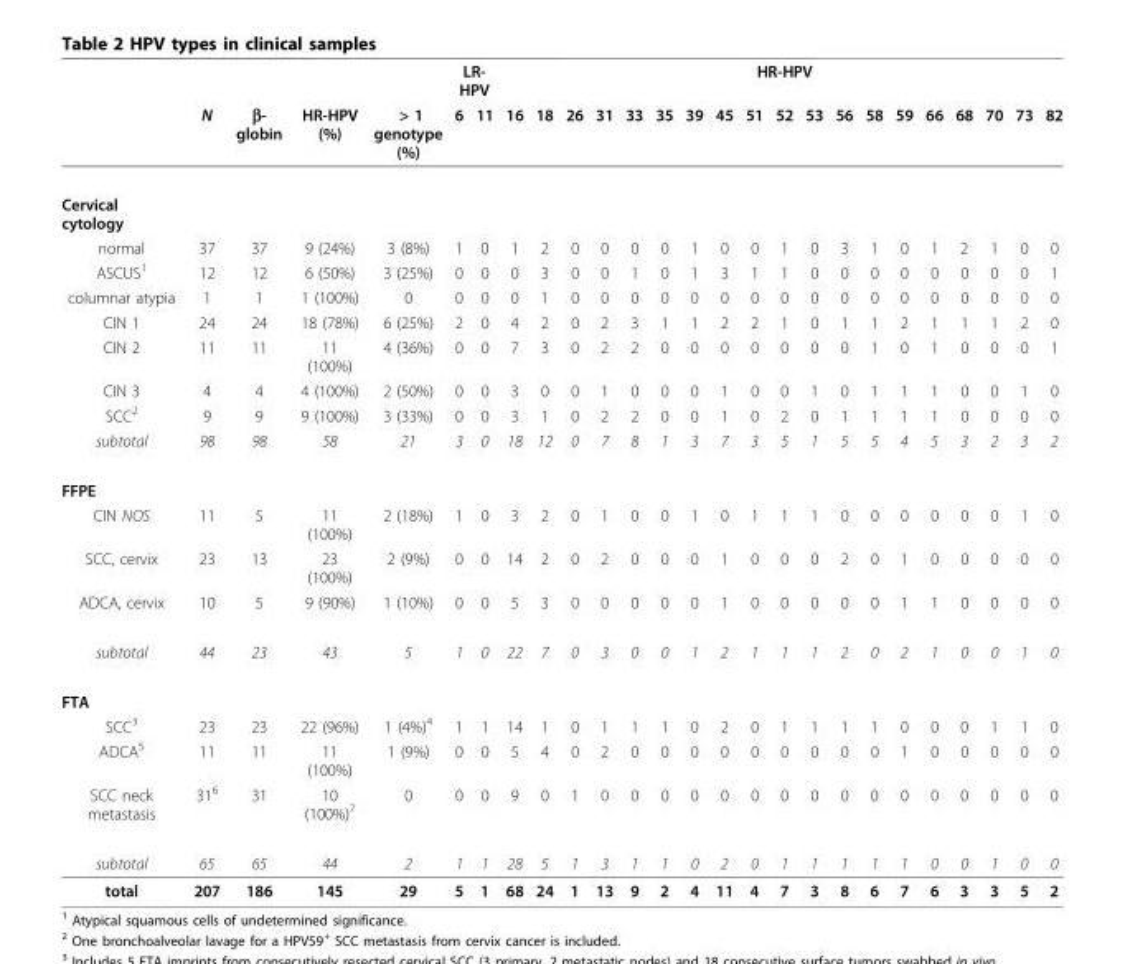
<table><thead><tr><td rowspan="2"></td><td rowspan="2">N</td><td rowspan="2">β- globin</td><td rowspan="2">HR-HPV (%)</td><td rowspan="2">&gt; 1 genotype (%)</td><td colspan="2">LR- HPV</td><td colspan="19">HR-HPV</td></tr><tr><td>6</td><td>11</td><td>16</td><td>18</td><td>26</td><td>31</td><td>33</td><td>35</td><td>39</td><td>45</td><td>51</td><td>52</td><td>53</td><td>56</td><td>58</td><td>59</td><td>66</td><td>68</td><td>70</td><td>73</td><td>82</td></tr></thead><tbody><tr><td colspan="26">Cervical cytology</td></tr><tr><td>normal</td><td>37</td><td>37</td><td>9 (24%)</td><td>3 (8%)</td><td>1</td><td>0</td><td>1</td><td>2</td><td>0</td><td>0</td><td>0</td><td>0</td><td>1</td><td>0</td><td>0</td><td>1</td><td>0</td><td>3</td><td>1</td><td>0</td><td>1</td><td>2</td><td>1</td><td>0</td><td>0</td></tr><tr><td>ASCUS<sup>1</sup></td><td>12</td><td>12</td><td>6 (50%)</td><td>3 (25%)</td><td>0</td><td>0</td><td>0</td><td>3</td><td>0</td><td>0</td><td>1</td><td>0</td><td>1</td><td>3</td><td>1</td><td>1</td><td>0</td><td>0</td><td>0</td><td>0</td><td>0</td><td>0</td><td>0</td><td>0</td><td>1</td></tr><tr><td>columnar atypia</td><td>1</td><td>1</td><td>1 (100%)</td><td>0</td><td>0</td><td>0</td><td>0</td><td>1</td><td>0</td><td>0</td><td>0</td><td>0</td><td>0</td><td>0</td><td>0</td><td>0</td><td>0</td><td>0</td><td>0</td><td>0</td><td>0</td><td>0</td><td>0</td><td>0</td><td>0</td></tr><tr><td>CIN 1</td><td>24</td><td>24</td><td>18 (78%)</td><td>6 (25%)</td><td>2</td><td>0</td><td>4</td><td>2</td><td>0</td><td>2</td><td>3</td><td>1</td><td>1</td><td>2</td><td>2</td><td>1</td><td>0</td><td>1</td><td>1</td><td>2</td><td>1</td><td>1</td><td>1</td><td>2</td><td>0</td></tr><tr><td>CIN 2</td><td>11</td><td>11</td><td>11 (100%)</td><td>4 (36%)</td><td>0</td><td>0</td><td>7</td><td>3</td><td>0</td><td>2</td><td>2</td><td>0</td><td>0</td><td>0</td><td>0</td><td>0</td><td>0</td><td>0</td><td>1</td><td>0</td><td>1</td><td>0</td><td>0</td><td>0</td><td>1</td></tr><tr><td>CIN 3</td><td>4</td><td>4</td><td>4 (100%)</td><td>2 (50%)</td><td>0</td><td>0</td><td>3</td><td>0</td><td>0</td><td>1</td><td>0</td><td>0</td><td>0</td><td>1</td><td>0</td><td>0</td><td>1</td><td>0</td><td>1</td><td>1</td><td>1</td><td>0</td><td>0</td><td>1</td><td>0</td></tr><tr><td>SCC<sup>2</sup></td><td>9</td><td>9</td><td>9 (100%)</td><td>3 (33%)</td><td>0</td><td>0</td><td>3</td><td>1</td><td>0</td><td>2</td><td>2</td><td>0</td><td>0</td><td>1</td><td>0</td><td>2</td><td>0</td><td>1</td><td>1</td><td>1</td><td>1</td><td>0</td><td>0</td><td>0</td><td>0</td></tr><tr><td>subtotal</td><td>98</td><td>98</td><td>58</td><td>21</td><td>3</td><td>0</td><td>18</td><td>12</td><td>0</td><td>7</td><td>8</td><td>1</td><td>3</td><td>7</td><td>3</td><td>5</td><td>1</td><td>5</td><td>5</td><td>4</td><td>5</td><td>3</td><td>2</td><td>3</td><td>2</td></tr><tr><td colspan="26">FFPE</td></tr><tr><td>CIN NOS</td><td>11</td><td>5</td><td>11 (100%)</td><td>2 (18%)</td><td>1</td><td>0</td><td>3</td><td>2</td><td>0</td><td>1</td><td>0</td><td>0</td><td>1</td><td>0</td><td>1</td><td>1</td><td>1</td><td>0</td><td>0</td><td>0</td><td>0</td><td>0</td><td>0</td><td>1</td><td>0</td></tr><tr><td>SCC, cervix</td><td>23</td><td>13</td><td>23 (100%)</td><td>2 (9%)</td><td>0</td><td>0</td><td>14</td><td>2</td><td>0</td><td>2</td><td>0</td><td>0</td><td>0</td><td>1</td><td>0</td><td>0</td><td>0</td><td>2</td><td>0</td><td>1</td><td>0</td><td>0</td><td>0</td><td>0</td><td>0</td></tr><tr><td>ADCA, cervix</td><td>10</td><td>5</td><td>9 (90%)</td><td>1 (10%)</td><td>0</td><td>0</td><td>5</td><td>3</td><td>0</td><td>0</td><td>0</td><td>0</td><td>0</td><td>1</td><td>0</td><td>0</td><td>0</td><td>0</td><td>0</td><td>1</td><td>1</td><td>0</td><td>0</td><td>0</td><td>0</td></tr><tr><td>subtotal</td><td>44</td><td>23</td><td>43</td><td>5</td><td>1</td><td>0</td><td>22</td><td>7</td><td>0</td><td>3</td><td>0</td><td>0</td><td>1</td><td>2</td><td>1</td><td>1</td><td>1</td><td>2</td><td>0</td><td>2</td><td>1</td><td>0</td><td>0</td><td>1</td><td>0</td></tr><tr><td colspan="26">FTA</td></tr><tr><td>SCC<sup>3</sup></td><td>23</td><td>23</td><td>22 (96%)</td><td>1 (4%)<sup>4</sup></td><td>1</td><td>1</td><td>14</td><td>1</td><td>0</td><td>1</td><td>1</td><td>1</td><td>0</td><td>2</td><td>0</td><td>1</td><td>1</td><td>1</td><td>1</td><td>0</td><td>0</td><td>0</td><td>1</td><td>1</td><td>0</td></tr><tr><td>ADCA<sup>5</sup></td><td>11</td><td>11</td><td>11 (100%)</td><td>1 (9%)</td><td>0</td><td>0</td><td>5</td><td>4</td><td>0</td><td>2</td><td>0</td><td>0</td><td>0</td><td>0</td><td>0</td><td>0</td><td>0</td><td>0</td><td>0</td><td>1</td><td>0</td><td>0</td><td>0</td><td>0</td><td>0</td></tr><tr><td>SCC neck metastasis</td><td>31<sup>6</sup></td><td>31</td><td>10 (100%)<sup>7</sup></td><td>0</td><td>0</td><td>0</td><td>9</td><td>0</td><td>1</td><td>0</td><td>0</td><td>0</td><td>0</td><td>0</td><td>0</td><td>0</td><td>0</td><td>0</td><td>0</td><td>0</td><td>0</td><td>0</td><td>0</td><td>0</td><td>0</td></tr><tr><td>subtotal</td><td>65</td><td>65</td><td>44</td><td>2</td><td>1</td><td>1</td><td>28</td><td>5</td><td>1</td><td>3</td><td>1</td><td>1</td><td>0</td><td>2</td><td>0</td><td>1</td><td>1</td><td>1</td><td>1</td><td>1</td><td>0</td><td>0</td><td>1</td><td>0</td><td>0</td></tr><tr><td>total</td><td>207</td><td>186</td><td>145</td><td>29</td><td>5</td><td>1</td><td>68</td><td>24</td><td>1</td><td>13</td><td>9</td><td>2</td><td>4</td><td>11</td><td>4</td><td>7</td><td>3</td><td>8</td><td>6</td><td>7</td><td>6</td><td>3</td><td>3</td><td>5</td><td>2</td></tr></tbody></table>